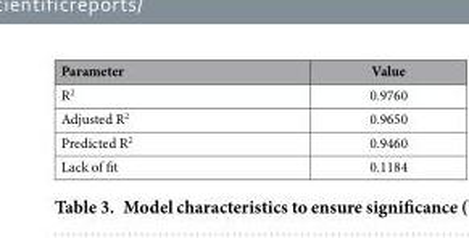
<table><thead><tr><td>Parameter</td><td>Value</td></tr></thead><tbody><tr><td>R<sup>2</sup></td><td>0.9760</td></tr><tr><td>Adjusted R<sup>2</sup></td><td>0.9650</td></tr><tr><td>Predicted R<sup>2</sup></td><td>0.9460</td></tr><tr><td>Lack of fit</td><td>0.1184</td></tr></tbody></table>